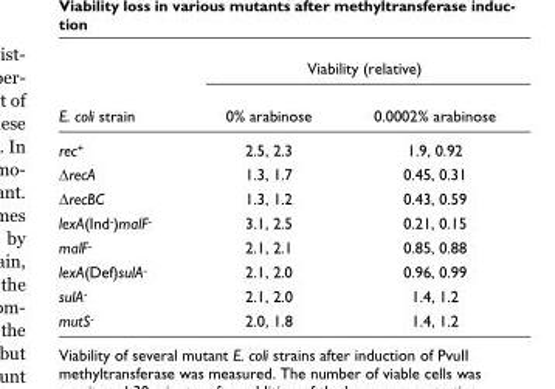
<table><thead><tr><td rowspan="2">E. coli strain</td><td colspan="2">Viability (relative)</td></tr><tr><td>0% arabinose</td><td>0.0002% arabinose</td></tr></thead><tbody><tr><td>rec<sup>+</sup></td><td>2.5, 2.3</td><td>1.9, 0.92</td></tr><tr><td>ΔrecA</td><td>1.3, 1.7</td><td>0.45, 0.31</td></tr><tr><td>ΔrecBC</td><td>1.3, 1.2</td><td>0.43, 0.59</td></tr><tr><td>lexA(Ind<sup>-</sup>)malF<sup>-</sup></td><td>3.1, 2.5</td><td>0.21, 0.15</td></tr><tr><td>malF<sup>-</sup></td><td>2.1, 2.1</td><td>0.85, 0.88</td></tr><tr><td>lexA(Def)sulA<sup>-</sup></td><td>2.1, 2.0</td><td>0.96, 0.99</td></tr><tr><td>sulA<sup>-</sup></td><td>2.1, 2.0</td><td>1.4, 1.2</td></tr><tr><td>mutS<sup>-</sup></td><td>2.0, 1.8</td><td>1.4, 1.2</td></tr></tbody></table>